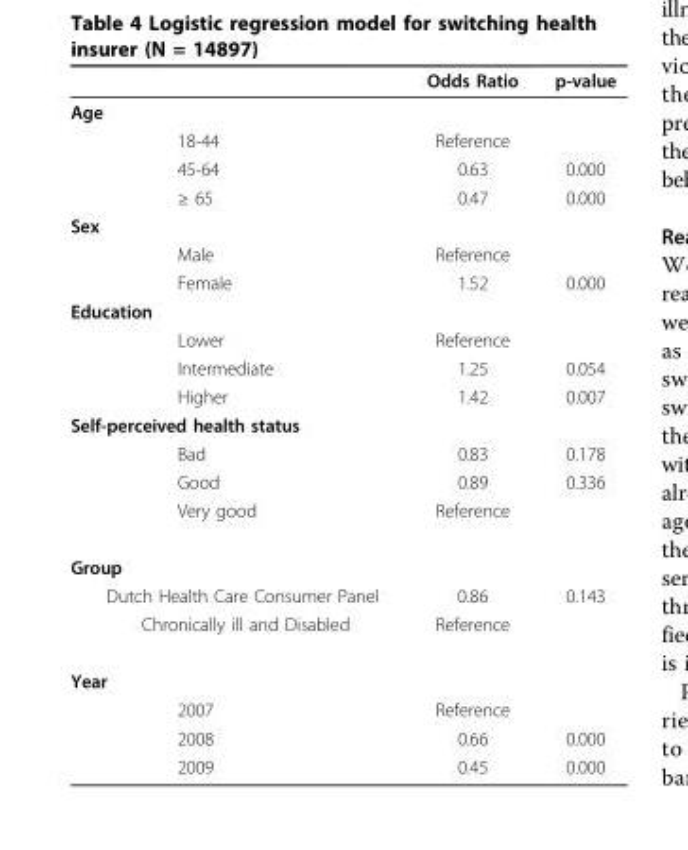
<table><thead><tr><td></td><td>Odds Ratio</td><td>p-value</td></tr></thead><tbody><tr><td colspan="3">Age</td></tr><tr><td>18-44</td><td>Reference</td><td></td></tr><tr><td>45-64</td><td>0.63</td><td>0.000</td></tr><tr><td>≥ 65</td><td>0.47</td><td>0.000</td></tr><tr><td colspan="3">Sex</td></tr><tr><td>Male</td><td>Reference</td><td></td></tr><tr><td>Female</td><td>1.52</td><td>0.000</td></tr><tr><td colspan="3">Education</td></tr><tr><td>Lower</td><td>Reference</td><td></td></tr><tr><td>Intermediate</td><td>1.25</td><td>0.054</td></tr><tr><td>Higher</td><td>1.42</td><td>0.007</td></tr><tr><td colspan="3">Self-perceived health status</td></tr><tr><td>Bad</td><td>0.83</td><td>0.178</td></tr><tr><td>Good</td><td>0.89</td><td>0.336</td></tr><tr><td>Very good</td><td>Reference</td><td></td></tr><tr><td colspan="3">Group</td></tr><tr><td>Dutch Health Care Consumer Panel</td><td>0.86</td><td>0.143</td></tr><tr><td>Chronically ill and Disabled</td><td>Reference</td><td></td></tr><tr><td colspan="3">Year</td></tr><tr><td>2007</td><td>Reference</td><td></td></tr><tr><td>2008</td><td>0.66</td><td>0.000</td></tr><tr><td>2009</td><td>0.45</td><td>0.000</td></tr></tbody></table>